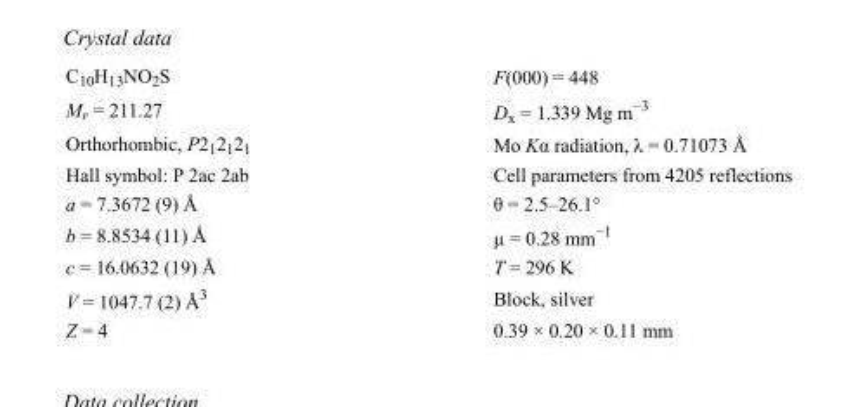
<table><tbody><tr><td>C<sub>10</sub>H<sub>13</sub>NO<sub>2</sub>S</td><td>F(000) = 448</td></tr><tr><td>M<sub>r</sub> = 211.27</td><td>D<sub>x</sub> = 1.339 Mg m<sup>−3</sup></td></tr><tr><td>Orthorhombic, P2<sub>1</sub>2<sub>1</sub>2<sub>1</sub></td><td>Mo Kα radiation, λ = 0.71073 Å</td></tr><tr><td>Hall symbol: P 2ac 2ab</td><td>Cell parameters from 4205 reflections</td></tr><tr><td>a = 7.3672 (9) Å</td><td>θ = 2.5–26.1°</td></tr><tr><td>b = 8.8534 (11) Å</td><td>µ = 0.28 mm<sup>−1</sup></td></tr><tr><td>c = 16.0632 (19) Å</td><td>T = 296 K</td></tr><tr><td>V = 1047.7 (2) Å<sup>3</sup></td><td>Block, silver</td></tr><tr><td>Z = 4</td><td>0.39 × 0.20 × 0.11 mm</td></tr></tbody></table>